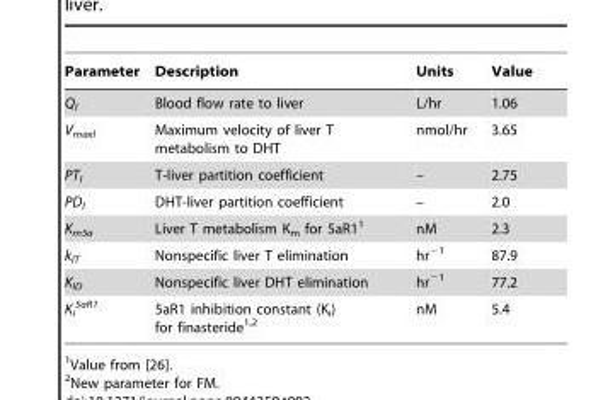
<table><thead><tr><td>Parameter</td><td>Description</td><td>Units</td><td>Value</td></tr></thead><tbody><tr><td>Q<sub>l</sub></td><td>Blood flow rate to liver</td><td>L/hr</td><td>1.06</td></tr><tr><td>V<sub>maxl</sub></td><td>Maximum velocity of liver T metabolism to DHT</td><td>nmol/hr</td><td>3.65</td></tr><tr><td>PT<sub>l</sub></td><td>T-liver partition coefficient</td><td>–</td><td>2.75</td></tr><tr><td>PD<sub>l</sub></td><td>DHT-liver partition coefficient</td><td>–</td><td>2.0</td></tr><tr><td>K<sub>m5a</sub></td><td>Liver T metabolism K<sub>m</sub> for 5aR1<sup>1</sup></td><td>nM</td><td>2.3</td></tr><tr><td>k<sub>lT</sub></td><td>Nonspecific liver T elimination</td><td>hr<sup>−1</sup></td><td>87.9</td></tr><tr><td>K<sub>lD</sub></td><td>Nonspecific liver DHT elimination</td><td>hr<sup>−1</sup></td><td>77.2</td></tr><tr><td>K<sub>i</sub> <sup>5aR1</sup></td><td>5aR1 inhibition constant (K<sub>i</sub>) for finasteride<sup>1,2</sup></td><td>nM</td><td>5.4</td></tr></tbody></table>